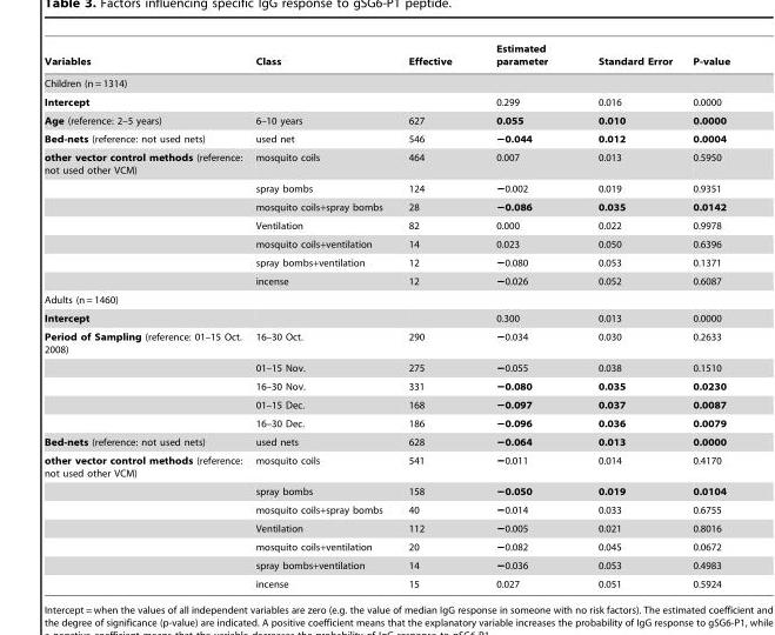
<table><thead><tr><td>Variables</td><td>Class</td><td>Effective</td><td>Estimated parameter</td><td>Standard Error</td><td>P-value</td></tr></thead><tbody><tr><td colspan="6">Children (n = 1314)</td></tr><tr><td>Intercept</td><td></td><td></td><td>0.299</td><td>0.016</td><td>0.0000</td></tr><tr><td>Age (reference: 2–5 years)</td><td>6–10 years</td><td>627</td><td>0.055</td><td>0.010</td><td>0.0000</td></tr><tr><td>Bed-nets (reference: not used nets)</td><td>used net</td><td>546</td><td>−0.044</td><td>0.012</td><td>0.0004</td></tr><tr><td rowspan="7">other vector control methods (reference: not used other VCM)</td><td>mosquito coils</td><td>464</td><td>0.007</td><td>0.013</td><td>0.5950</td></tr><tr><td>spray bombs</td><td>124</td><td>−0.002</td><td>0.019</td><td>0.9351</td></tr><tr><td>mosquito coils+spray bombs</td><td>28</td><td>−0.086</td><td>0.035</td><td>0.0142</td></tr><tr><td>Ventilation</td><td>82</td><td>0.000</td><td>0.022</td><td>0.9978</td></tr><tr><td>mosquito coils+ventilation</td><td>14</td><td>0.023</td><td>0.050</td><td>0.6396</td></tr><tr><td>spray bombs+ventilation</td><td>12</td><td>−0.080</td><td>0.053</td><td>0.1371</td></tr><tr><td>incense</td><td>12</td><td>−0.026</td><td>0.052</td><td>0.6087</td></tr><tr><td colspan="6">Adults (n = 1460)</td></tr><tr><td>Intercept</td><td></td><td></td><td>0.300</td><td>0.013</td><td>0.0000</td></tr><tr><td rowspan="5">Period of Sampling (reference: 01–15 Oct. 2008)</td><td>16–30 Oct.</td><td>290</td><td>−0.034</td><td>0.030</td><td>0.2633</td></tr><tr><td>01–15 Nov.</td><td>275</td><td>−0.055</td><td>0.038</td><td>0.1510</td></tr><tr><td>16–30 Nov.</td><td>331</td><td>−0.080</td><td>0.035</td><td>0.0230</td></tr><tr><td>01–15 Dec.</td><td>168</td><td>−0.097</td><td>0.037</td><td>0.0087</td></tr><tr><td>16–30 Dec.</td><td>186</td><td>−0.096</td><td>0.036</td><td>0.0079</td></tr><tr><td>Bed-nets (reference: not used nets)</td><td>used nets</td><td>628</td><td>−0.064</td><td>0.013</td><td>0.0000</td></tr><tr><td rowspan="7">other vector control methods (reference: not used other VCM)</td><td>mosquito coils</td><td>541</td><td>−0.011</td><td>0.014</td><td>0.4170</td></tr><tr><td>spray bombs</td><td>158</td><td>−0.050</td><td>0.019</td><td>0.0104</td></tr><tr><td>mosquito coils+spray bombs</td><td>40</td><td>−0.014</td><td>0.033</td><td>0.6755</td></tr><tr><td>Ventilation</td><td>112</td><td>−0.005</td><td>0.021</td><td>0.8016</td></tr><tr><td>mosquito coils+ventilation</td><td>20</td><td>−0.082</td><td>0.045</td><td>0.0672</td></tr><tr><td>spray bombs+ventilation</td><td>14</td><td>−0.036</td><td>0.053</td><td>0.4983</td></tr><tr><td>incense</td><td>15</td><td>0.027</td><td>0.051</td><td>0.5924</td></tr></tbody></table>